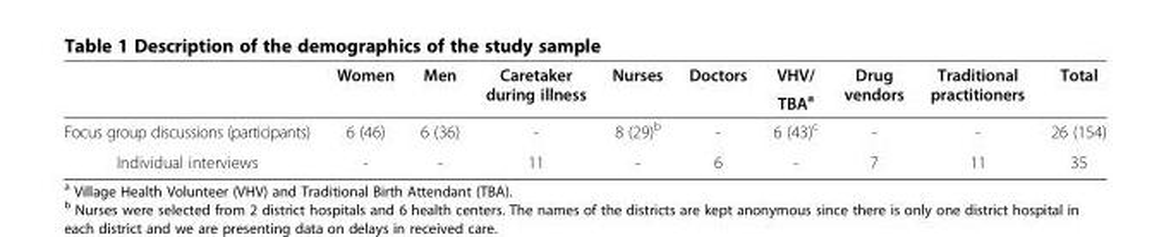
<table><thead><tr><td rowspan="2"></td><td rowspan="2">Women</td><td rowspan="2">Men</td><td rowspan="2">Caretaker during illness</td><td rowspan="2">Nurses</td><td rowspan="2">Doctors</td><td rowspan="2">VHV/ TBA<sup>a</sup></td><td rowspan="2">Drug vendors</td><td rowspan="2">Traditional practitioners</td><td rowspan="2">Total</td></tr><tr></tr></thead><tbody><tr><td>Focus group discussions (participants)</td><td>6 (46)</td><td>6 (36)</td><td>-</td><td>8 (29)<sup>b</sup></td><td>-</td><td>6 (43)<sup>c</sup></td><td>-</td><td>-</td><td>26 (154)</td></tr><tr><td>Individual interviews</td><td>-</td><td>-</td><td>11</td><td>-</td><td>6</td><td>-</td><td>7</td><td>11</td><td>35</td></tr></tbody></table>